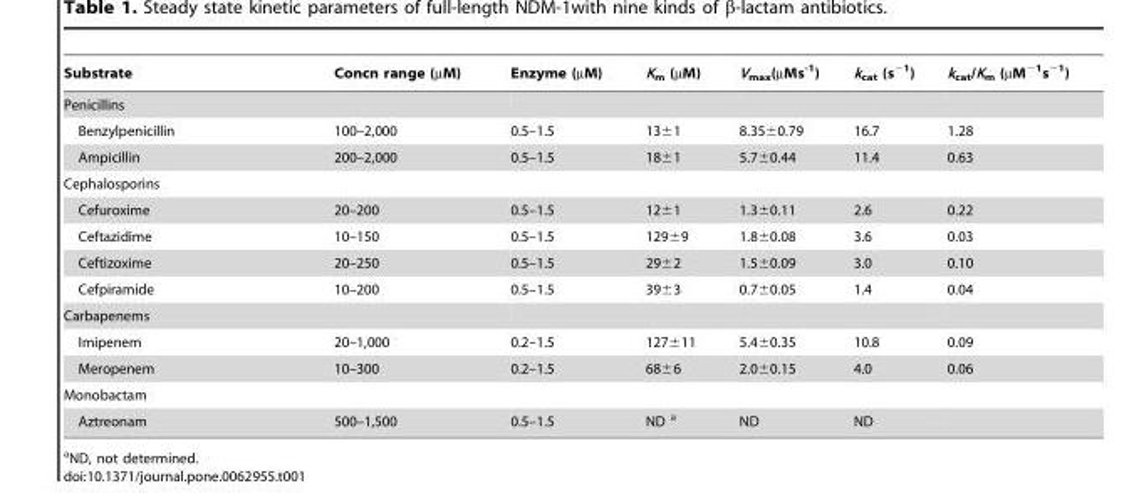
<table><thead><tr><td>Substrate</td><td>Concn range (µM)</td><td>Enzyme (µM)</td><td>K<sub>m</sub> (µM)</td><td>V<sub>max</sub>(µMs<sup>-1</sup>)</td><td>k<sub>cat</sub> (s<sup>−1</sup>)</td><td>k<sub>cat</sub>/K<sub>m</sub> (µM<sup>−1</sup>s<sup>−1</sup>)</td></tr></thead><tbody><tr><td colspan="7">Penicillins</td></tr><tr><td>Benzylpenicillin</td><td>100–2,000</td><td>0.5–1.5</td><td>13±1</td><td>8.35±0.79</td><td>16.7</td><td>1.28</td></tr><tr><td>Ampicillin</td><td>200–2,000</td><td>0.5–1.5</td><td>18±1</td><td>5.7±0.44</td><td>11.4</td><td>0.63</td></tr><tr><td colspan="7">Cephalosporins</td></tr><tr><td>Cefuroxime</td><td>20–200</td><td>0.5–1.5</td><td>12±1</td><td>1.3±0.11</td><td>2.6</td><td>0.22</td></tr><tr><td>Ceftazidime</td><td>10–150</td><td>0.5–1.5</td><td>129±9</td><td>1.8±0.08</td><td>3.6</td><td>0.03</td></tr><tr><td>Ceftizoxime</td><td>20–250</td><td>0.5–1.5</td><td>29±2</td><td>1.5±0.09</td><td>3.0</td><td>0.10</td></tr><tr><td>Cefpiramide</td><td>10–200</td><td>0.5–1.5</td><td>39±3</td><td>0.7±0.05</td><td>1.4</td><td>0.04</td></tr><tr><td colspan="7">Carbapenems</td></tr><tr><td>Imipenem</td><td>20–1,000</td><td>0.2–1.5</td><td>127±11</td><td>5.4±0.35</td><td>10.8</td><td>0.09</td></tr><tr><td>Meropenem</td><td>10–300</td><td>0.2–1.5</td><td>68±6</td><td>2.0±0.15</td><td>4.0</td><td>0.06</td></tr><tr><td colspan="7">Monobactam</td></tr><tr><td>Aztreonam</td><td>500–1,500</td><td>0.5–1.5</td><td>ND a</td><td>ND</td><td>ND</td><td></td></tr></tbody></table>